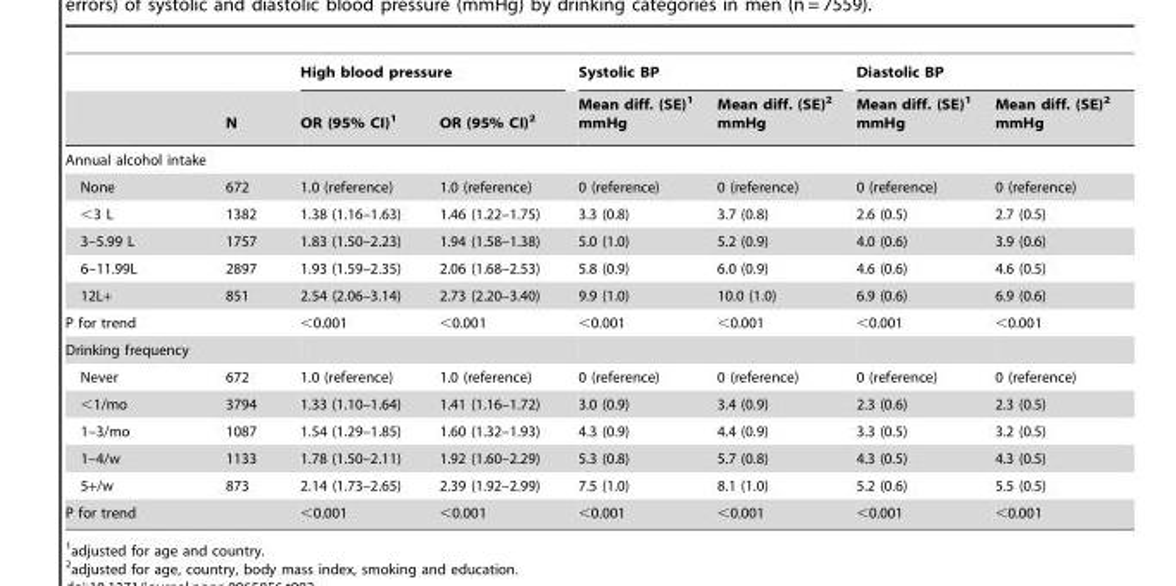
<table><thead><tr><td rowspan="2"></td><td rowspan="2">N</td><td colspan="2">High blood pressure</td><td colspan="2">Systolic BP</td><td colspan="2">Diastolic BP</td></tr><tr><td>OR (95% CI)<sup>1</sup></td><td>OR (95% CI)<sup>2</sup></td><td>Mean diff. (SE)<sup>1</sup> mmHg</td><td>Mean diff. (SE)<sup>2</sup> mmHg</td><td>Mean diff. (SE)<sup>1</sup> mmHg</td><td>Mean diff. (SE)<sup>2</sup> mmHg</td></tr></thead><tbody><tr><td colspan="8">Annual alcohol intake</td></tr><tr><td>None</td><td>672</td><td>1.0 (reference)</td><td>1.0 (reference)</td><td>0 (reference)</td><td>0 (reference)</td><td>0 (reference)</td><td>0 (reference)</td></tr><tr><td>&lt;3 L</td><td>1382</td><td>1.38 (1.16–1.63)</td><td>1.46 (1.22–1.75)</td><td>3.3 (0.8)</td><td>3.7 (0.8)</td><td>2.6 (0.5)</td><td>2.7 (0.5)</td></tr><tr><td>3–5.99 L</td><td>1757</td><td>1.83 (1.50–2.23)</td><td>1.94 (1.58–1.38)</td><td>5.0 (1.0)</td><td>5.2 (0.9)</td><td>4.0 (0.6)</td><td>3.9 (0.6)</td></tr><tr><td>6–11.99L</td><td>2897</td><td>1.93 (1.59–2.35)</td><td>2.06 (1.68–2.53)</td><td>5.8 (0.9)</td><td>6.0 (0.9)</td><td>4.6 (0.6)</td><td>4.6 (0.5)</td></tr><tr><td>12L+</td><td>851</td><td>2.54 (2.06–3.14)</td><td>2.73 (2.20–3.40)</td><td>9.9 (1.0)</td><td>10.0 (1.0)</td><td>6.9 (0.6)</td><td>6.9 (0.6)</td></tr><tr><td>P for trend</td><td></td><td>&lt;0.001</td><td>&lt;0.001</td><td>&lt;0.001</td><td>&lt;0.001</td><td>&lt;0.001</td><td>&lt;0.001</td></tr><tr><td colspan="8">Drinking frequency</td></tr><tr><td>Never</td><td>672</td><td>1.0 (reference)</td><td>1.0 (reference)</td><td>0 (reference)</td><td>0 (reference)</td><td>0 (reference)</td><td>0 (reference)</td></tr><tr><td>&lt;1/mo</td><td>3794</td><td>1.33 (1.10–1.64)</td><td>1.41 (1.16–1.72)</td><td>3.0 (0.9)</td><td>3.4 (0.9)</td><td>2.3 (0.6)</td><td>2.3 (0.5)</td></tr><tr><td>1–3/mo</td><td>1087</td><td>1.54 (1.29–1.85)</td><td>1.60 (1.32–1.93)</td><td>4.3 (0.9)</td><td>4.4 (0.9)</td><td>3.3 (0.5)</td><td>3.2 (0.5)</td></tr><tr><td>1–4/w</td><td>1133</td><td>1.78 (1.50–2.11)</td><td>1.92 (1.60–2.29)</td><td>5.3 (0.8)</td><td>5.7 (0.8)</td><td>4.3 (0.5)</td><td>4.3 (0.5)</td></tr><tr><td>5+/w</td><td>873</td><td>2.14 (1.73–2.65)</td><td>2.39 (1.92–2.99)</td><td>7.5 (1.0)</td><td>8.1 (1.0)</td><td>5.2 (0.6)</td><td>5.5 (0.5)</td></tr><tr><td>P for trend</td><td></td><td>&lt;0.001</td><td>&lt;0.001</td><td>&lt;0.001</td><td>&lt;0.001</td><td>&lt;0.001</td><td>&lt;0.001</td></tr></tbody></table>